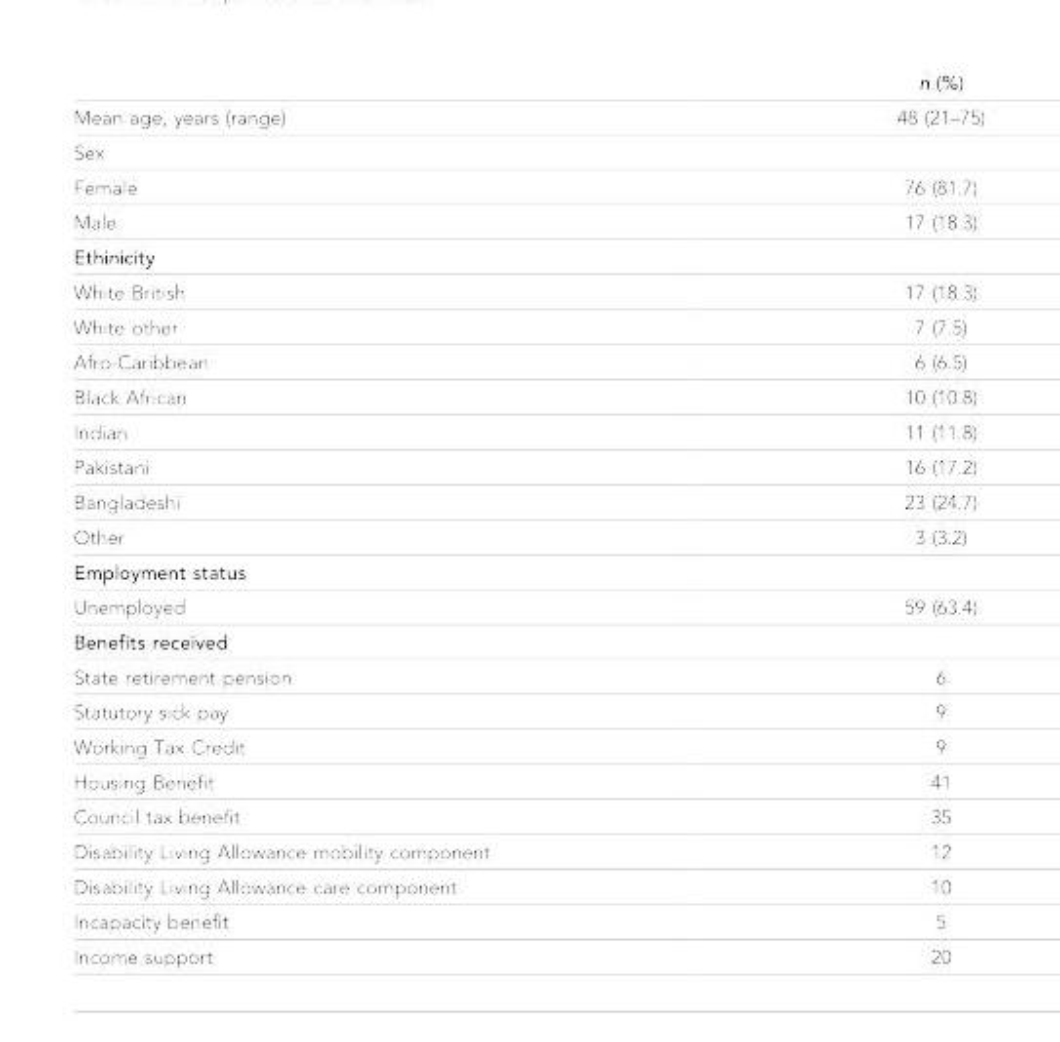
<table><thead><tr><td></td><td>n (%)</td></tr></thead><tbody><tr><td>Mean age, years (range)</td><td>48 (21–75)</td></tr><tr><td colspan="2">Sex</td></tr><tr><td>Female</td><td>76 (81.7)</td></tr><tr><td>Male</td><td>17 (18.3)</td></tr><tr><td colspan="2">Ethinicity</td></tr><tr><td>White British</td><td>17 (18.3)</td></tr><tr><td>White other</td><td>7 (7.5)</td></tr><tr><td>Afro-Caribbean</td><td>6 (6.5)</td></tr><tr><td>Black African</td><td>10 (10.8)</td></tr><tr><td>Indian</td><td>11 (11.8)</td></tr><tr><td>Pakistani</td><td>16 (17.2)</td></tr><tr><td>Bangladeshi</td><td>23 (24.7)</td></tr><tr><td>Other</td><td>3 (3.2)</td></tr><tr><td colspan="2">Employment status</td></tr><tr><td>Unemployed</td><td>59 (63.4)</td></tr><tr><td colspan="2">Benefits received</td></tr><tr><td>State retirement pension</td><td>6</td></tr><tr><td>Statutory sick pay</td><td>9</td></tr><tr><td>Working Tax Credit</td><td>9</td></tr><tr><td>Housing Benefit</td><td>41</td></tr><tr><td>Council tax benefit</td><td>35</td></tr><tr><td>Disability Living Allowance mobility component</td><td>12</td></tr><tr><td>Disability Living Allowance care component</td><td>10</td></tr><tr><td>Incapacity benefit</td><td>5</td></tr><tr><td>Income support</td><td>20</td></tr></tbody></table>